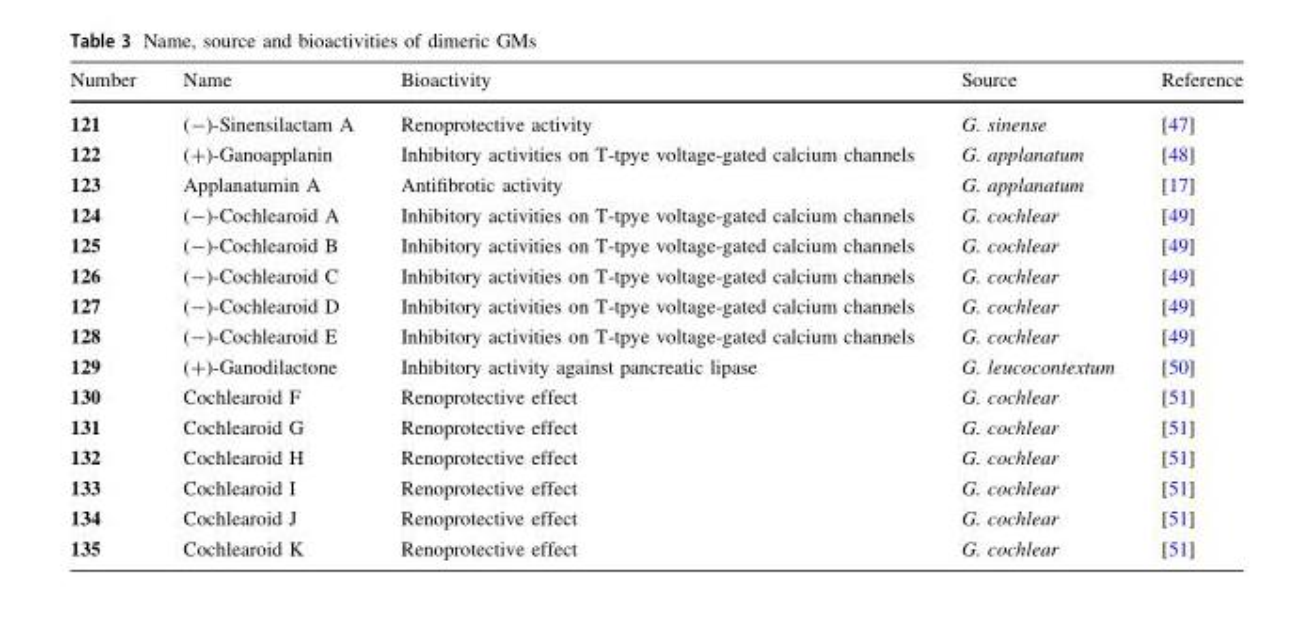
<table><thead><tr><td>Number</td><td>Name</td><td>Bioactivity</td><td>Source</td><td>Reference</td></tr></thead><tbody><tr><td>121</td><td>(-)-Sinensilactam A</td><td>Renoprotective activity</td><td>G. sinense</td><td>[47]</td></tr><tr><td>122</td><td>(+)-Ganoapplanin</td><td>Inhibitory activities on T-tpye voltage-gated calcium channels</td><td>G. applanatum</td><td>[48]</td></tr><tr><td>123</td><td>Applanatumin A</td><td>Antifibrotic activity</td><td>G. applanatum</td><td>[17]</td></tr><tr><td>124</td><td>(-)-Cochlearoid A</td><td>Inhibitory activities on T-tpye voltage-gated calcium channels</td><td>G. cochlear</td><td>[49]</td></tr><tr><td>125</td><td>(-)-Cochlearoid B</td><td>Inhibitory activities on T-tpye voltage-gated calcium channels</td><td>G. cochlear</td><td>[49]</td></tr><tr><td>126</td><td>(-)-Cochlearoid C</td><td>Inhibitory activities on T-tpye voltage-gated calcium channels</td><td>G. cochlear</td><td>[49]</td></tr><tr><td>127</td><td>(-)-Cochlearoid D</td><td>Inhibitory activities on T-tpye voltage-gated calcium channels</td><td>G. cochlear</td><td>[49]</td></tr><tr><td>128</td><td>(-)-Cochlearoid E</td><td>Inhibitory activities on T-tpye voltage-gated calcium channels</td><td>G. cochlear</td><td>[49]</td></tr><tr><td>129</td><td>(+)-Ganodilactone</td><td>Inhibitory activity against pancreatic lipase</td><td>G. leucocontextum</td><td>[50]</td></tr><tr><td>130</td><td>Cochlearoid F</td><td>Renoprotective effect</td><td>G. cochlear</td><td>[51]</td></tr><tr><td>131</td><td>Cochlearoid G</td><td>Renoprotective effect</td><td>G. cochlear</td><td>[51]</td></tr><tr><td>132</td><td>Cochlearoid H</td><td>Renoprotective effect</td><td>G. cochlear</td><td>[51]</td></tr><tr><td>133</td><td>Cochlearoid I</td><td>Renoprotective effect</td><td>G. cochlear</td><td>[51]</td></tr><tr><td>134</td><td>Cochlearoid J</td><td>Renoprotective effect</td><td>G. cochlear</td><td>[51]</td></tr><tr><td>135</td><td>Cochlearoid K</td><td>Renoprotective effect</td><td>G. cochlear</td><td>[51]</td></tr></tbody></table>